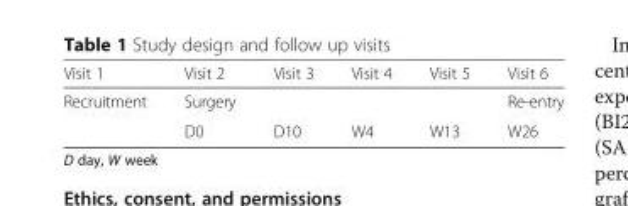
<table><thead><tr><td>Visit 1</td><td>Visit 2</td><td>Visit 3</td><td>Visit 4</td><td>Visit 5</td><td>Visit 6</td></tr></thead><tbody><tr><td rowspan="2">Recruitment</td><td>Surgery</td><td></td><td></td><td></td><td>Re-entry</td></tr><tr><td>D0</td><td>D10</td><td>W4</td><td>W13</td><td>W26</td></tr></tbody></table>